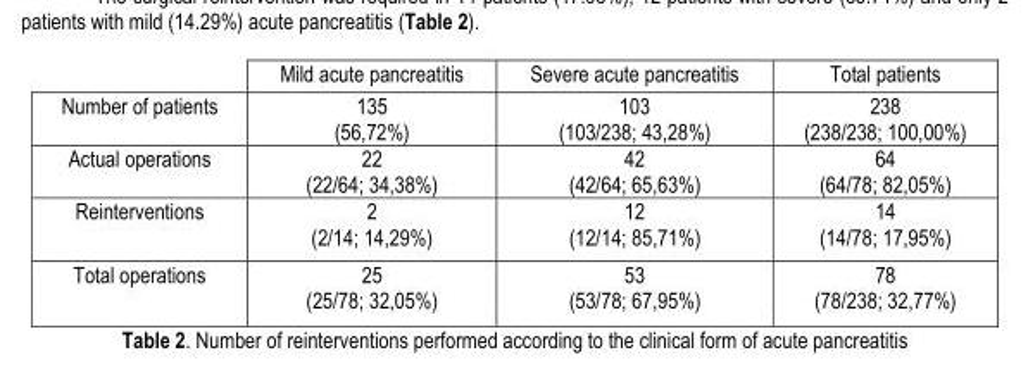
<table><thead><tr><td></td><td>Mild acute pancreatitis</td><td>Severe acute pancreatitis</td><td>Total patients</td></tr></thead><tbody><tr><td>Number of patients</td><td>135 (56,72%)</td><td>103 (103/238; 43,28%)</td><td>238 (238/238; 100,00%)</td></tr><tr><td>Actual operations</td><td>22 (22/64; 34,38%)</td><td>42 (42/64; 65,63%)</td><td>64 (64/78; 82,05%)</td></tr><tr><td>Reinterventions</td><td>2 (2/14; 14,29%)</td><td>12 (12/14; 85,71%)</td><td>14 (14/78; 17,95%)</td></tr><tr><td>Total operations</td><td>25 (25/78; 32,05%)</td><td>53 (53/78; 67,95%)</td><td>78 (78/238; 32,77%)</td></tr></tbody></table>